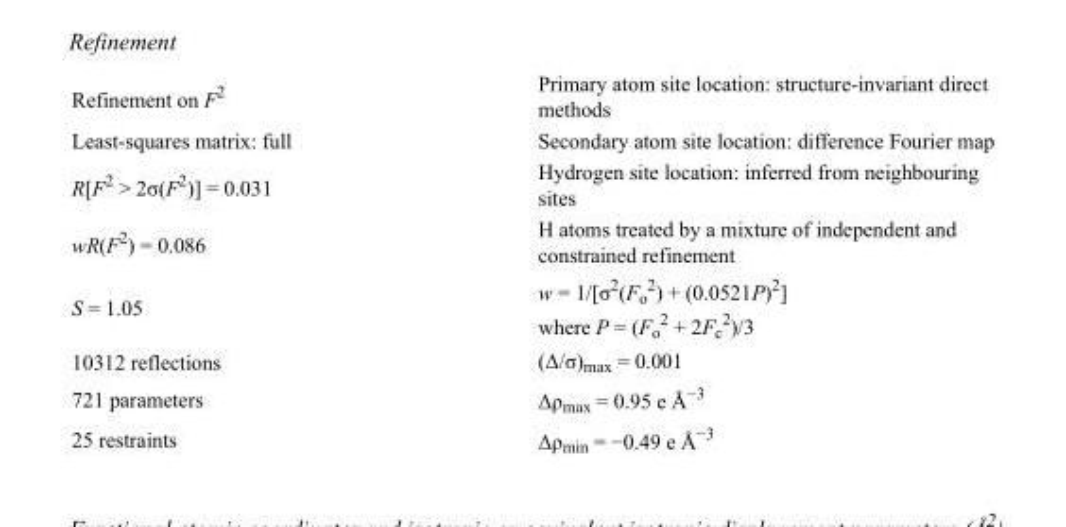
<table><tbody><tr><td>Refinement on F<sup>2</sup></td><td>Primary atom site location: structure-invariant direct methods</td></tr><tr><td>Least-squares matrix: full</td><td>Secondary atom site location: difference Fourier map</td></tr><tr><td>R[F<sup>2</sup> &gt; 2σ(F<sup>2</sup>)] = 0.031</td><td>Hydrogen site location: inferred from neighbouring sites</td></tr><tr><td>wR(F<sup>2</sup>) = 0.086</td><td>H atoms treated by a mixture of independent and constrained refinement</td></tr><tr><td>S = 1.05</td><td>w = 1/[σ<sup>2</sup>(F<sub>o</sub> <sup>2</sup>) + (0.0521P)<sup>2</sup>] where P = (F<sub>o</sub> <sup>2</sup> + 2F<sub>c</sub> <sup>2</sup>)/3</td></tr><tr><td>10312 reflections</td><td>(Δ/σ)<sub>max</sub> = 0.001</td></tr><tr><td>721 parameters</td><td>Δρ<sub>max</sub> = 0.95 e Å<sup>−3</sup></td></tr><tr><td>25 restraints</td><td>Δρ<sub>min</sub> = −0.49 e Å<sup>−3</sup></td></tr></tbody></table>